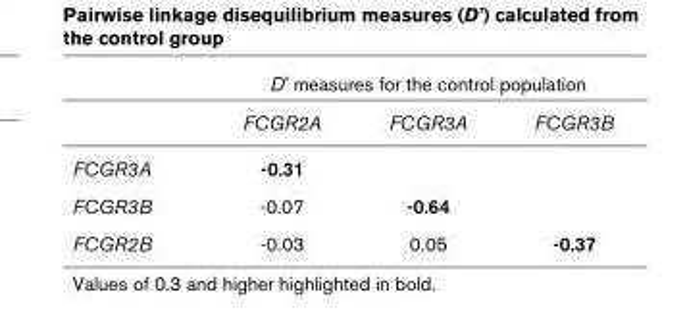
<table><thead><tr><td rowspan="2"></td><td colspan="3">D&#x27; measures for the control population</td></tr><tr><td>FCGR2A</td><td>FCGR3A</td><td>FCGR3B</td></tr></thead><tbody><tr><td>FCGR3A</td><td>-0.31</td><td></td><td></td></tr><tr><td>FCGR3B</td><td>-0.07</td><td>-0.64</td><td></td></tr><tr><td>FCGR2B</td><td>-0.03</td><td>0.05</td><td>-0.37</td></tr></tbody></table>